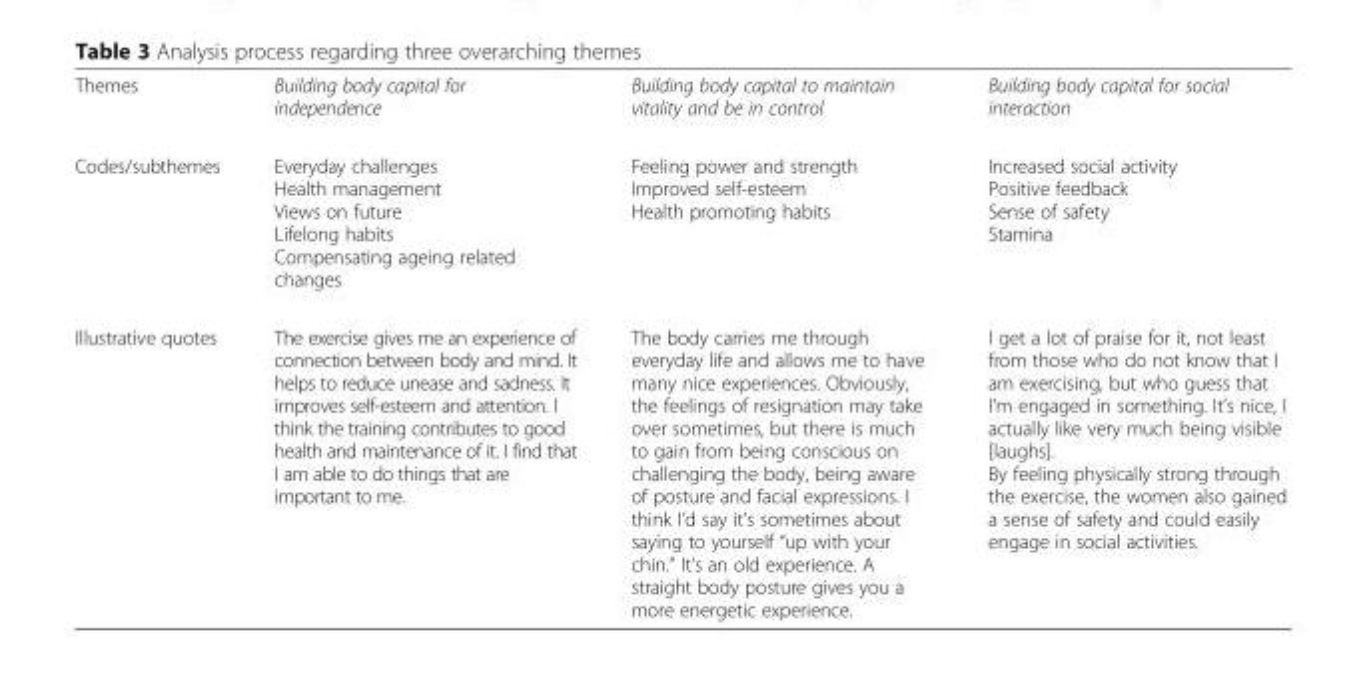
<table><tbody><tr><td>Themes</td><td>Building body capital for independence</td><td>Building body capital to maintain vitality and be in control</td><td>Building body capital for social interaction</td></tr><tr><td>Codes/subthemes</td><td>Everyday challenges Health management Views on future Lifelong habits Compensating ageing related changes</td><td>Feeling power and strength Improved self-esteem Health promoting habits</td><td>Increased social activity Positive feedback Sense of safety Stamina</td></tr><tr><td>Illustrative quotes</td><td>The exercise gives me an experience of connection between body and mind. It helps to reduce unease and sadness. It improves self-esteem and attention. I think the training contributes to good health and maintenance of it. I find that I am able to do things that are important to me.</td><td>The body carries me through everyday life and allows me to have many nice experiences. Obviously, the feelings of resignation may take over sometimes, but there is much to gain from being conscious on challenging the body, being aware of posture and facial expressions. I think I’d say it’s sometimes about saying to yourself “up with your chin.” It’s an old experience. A straight body posture gives you a more energetic experience.</td><td>I get a lot of praise for it, not least from those who do not know that I am exercising, but who guess that I’m engaged in something. It’s nice, I actually like very much being visible [laughs]. By feeling physically strong through the exercise, the women also gained a sense of safety and could easily engage in social activities.</td></tr></tbody></table>